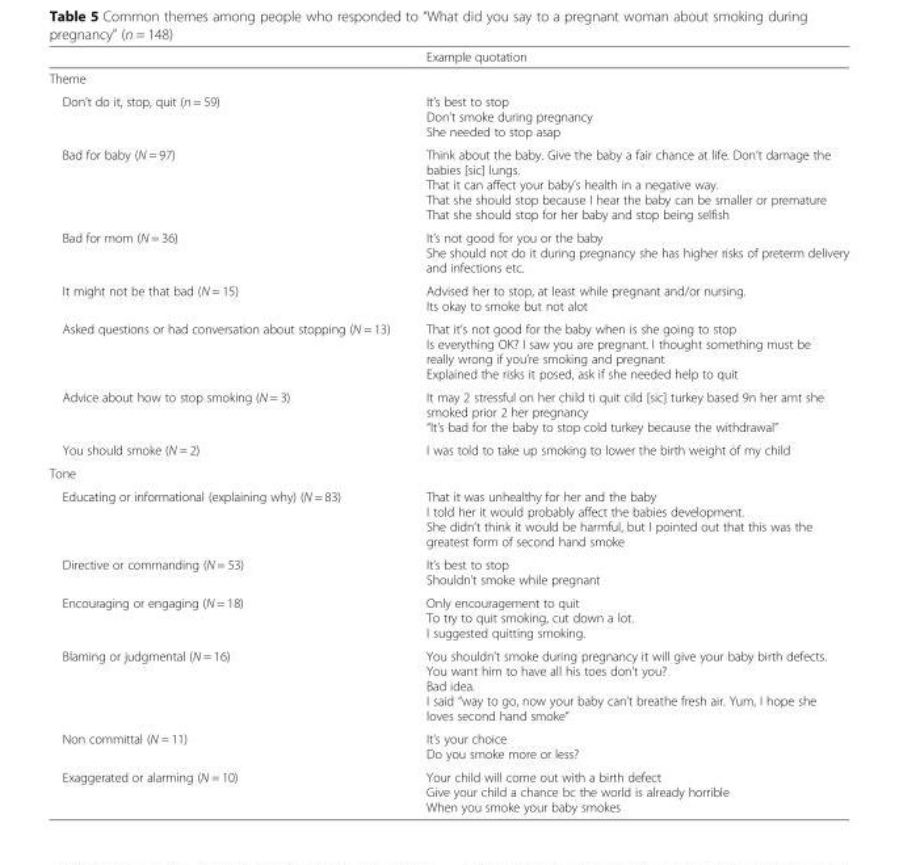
<table><thead><tr><td></td><td>Example quotation</td></tr></thead><tbody><tr><td colspan="2">Theme</td></tr><tr><td>Don’t do it, stop, quit (n = 59)</td><td>It’s best to stop Don’t smoke during pregnancy She needed to stop asap</td></tr><tr><td>Bad for baby (N = 97)</td><td>Think about the baby. Give the baby a fair chance at life. Don’t damage the babies [sic] lungs. That it can affect your baby’s health in a negative way. That she should stop because I hear the baby can be smaller or premature That she should stop for her baby and stop being selfish</td></tr><tr><td>Bad for mom (N = 36)</td><td>It’s not good for you or the baby She should not do it during pregnancy she has higher risks of preterm delivery and infections etc.</td></tr><tr><td>It might not be that bad (N = 15)</td><td>Advised her to stop, at least while pregnant and/or nursing. Its okay to smoke but not alot</td></tr><tr><td>Asked questions or had conversation about stopping (N = 13)</td><td>That it’s not good for the baby when is she going to stop Is everything OK? I saw you are pregnant. I thought something must be really wrong if you’re smoking and pregnant Explained the risks it posed, ask if she needed help to quit</td></tr><tr><td>Advice about how to stop smoking (N = 3)</td><td>It may 2 stressful on her child ti quit cild [sic] turkey based 9n her amt she smoked prior 2 her pregnancy “It’s bad for the baby to stop cold turkey because the withdrawal”</td></tr><tr><td>You should smoke (N = 2)</td><td>I was told to take up smoking to lower the birth weight of my child</td></tr><tr><td colspan="2">Tone</td></tr><tr><td>Educating or informational (explaining why) (N = 83)</td><td>That it was unhealthy for her and the baby I told her it would probably affect the babies development. She didn’t think it would be harmful, but I pointed out that this was the greatest form of second hand smoke</td></tr><tr><td>Directive or commanding (N = 53)</td><td>It’s best to stop Shouldn’t smoke while pregnant</td></tr><tr><td>Encouraging or engaging (N = 18)</td><td>Only encouragement to quit To try to quit smoking, cut down a lot. I suggested quitting smoking.</td></tr><tr><td>Blaming or judgmental (N = 16)</td><td>You shouldn’t smoke during pregnancy it will give your baby birth defects. You want him to have all his toes don’t you? Bad idea. I said “way to go, now your baby can’t breathe fresh air. Yum, I hope she loves second hand smoke”</td></tr><tr><td>Non committal (N = 11)</td><td>It’s your choice Do you smoke more or less?</td></tr><tr><td>Exaggerated or alarming (N = 10)</td><td>Your child will come out with a birth defect Give your child a chance bc the world is already horrible When you smoke your baby smokes</td></tr></tbody></table>